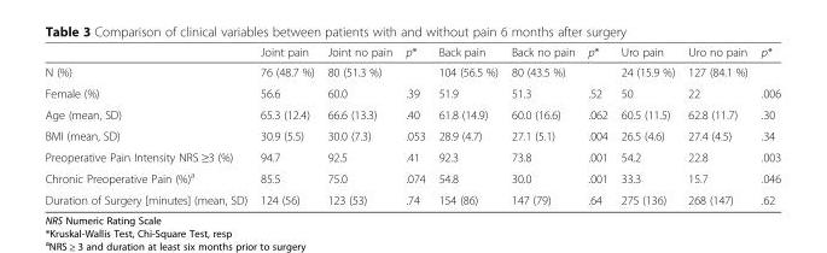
<table><thead><tr><td></td><td>Joint pain</td><td>Joint no pain</td><td>p*</td><td>Back pain</td><td>Back no pain</td><td>p*</td><td>Uro pain</td><td>Uro no pain</td><td>p*</td></tr></thead><tbody><tr><td>N (%)</td><td>76 (48.7 %)</td><td>80 (51.3 %)</td><td></td><td>104 (56.5 %)</td><td>80 (43.5 %)</td><td></td><td>24 (15.9 %)</td><td>127 (84.1 %)</td><td></td></tr><tr><td>Female (%)</td><td>56.6</td><td>60.0</td><td>.39</td><td>51.9</td><td>51.3</td><td>.52</td><td>50</td><td>22</td><td>.006</td></tr><tr><td>Age (mean, SD)</td><td>65.3 (12.4)</td><td>66.6 (13.3)</td><td>.40</td><td>61.8 (14.9)</td><td>60.0 (16.6)</td><td>.062</td><td>60.5 (11.5)</td><td>62.8 (11.7)</td><td>.30</td></tr><tr><td>BMI (mean, SD)</td><td>30.9 (5.5)</td><td>30.0 (7.3)</td><td>.053</td><td>28.9 (4.7)</td><td>27.1 (5.1)</td><td>.004</td><td>26.5 (4.6)</td><td>27.4 (4.5)</td><td>.34</td></tr><tr><td>Preoperative Pain Intensity NRS ≥3 (%)</td><td>94.7</td><td>92.5</td><td>.41</td><td>92.3</td><td>73.8</td><td>.001</td><td>54.2</td><td>22.8</td><td>.003</td></tr><tr><td>Chronic Preoperative Pain (%)<sup>a</sup></td><td>85.5</td><td>75.0</td><td>.074</td><td>54.8</td><td>30.0</td><td>.001</td><td>33.3</td><td>15.7</td><td>.046</td></tr><tr><td>Duration of Surgery [minutes] (mean, SD)</td><td>124 (56)</td><td>123 (53)</td><td>.74</td><td>154 (86)</td><td>147 (79)</td><td>.64</td><td>275 (136)</td><td>268 (147)</td><td>.62</td></tr></tbody></table>